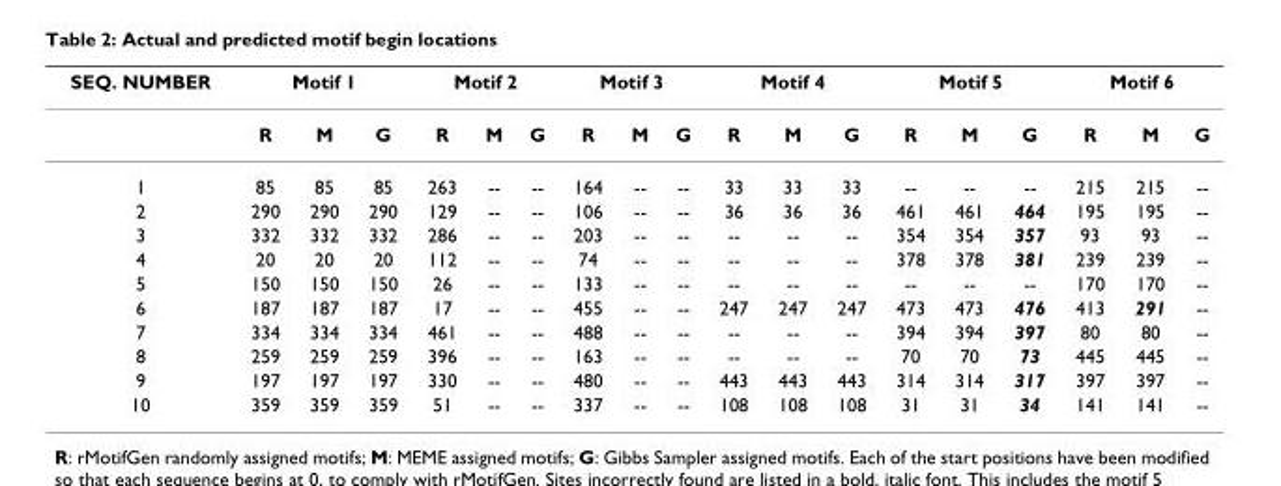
<table><thead><tr><td rowspan="2">SEQ. NUMBER</td><td colspan="3">Motif 1</td><td colspan="3">Motif 2</td><td colspan="3">Motif 3</td><td colspan="3">Motif 4</td><td colspan="3">Motif 5</td><td colspan="3">Motif 6</td></tr><tr><td>R</td><td>M</td><td>G</td><td>R</td><td>M</td><td>G</td><td>R</td><td>M</td><td>G</td><td>R</td><td>M</td><td>G</td><td>R</td><td>M</td><td>G</td><td>R</td><td>M</td><td>G</td></tr></thead><tbody><tr><td>1</td><td>85</td><td>85</td><td>85</td><td>263</td><td>--</td><td>--</td><td>164</td><td>--</td><td>--</td><td>33</td><td>33</td><td>33</td><td>--</td><td>--</td><td>--</td><td>215</td><td>215</td><td>--</td></tr><tr><td>2</td><td>290</td><td>290</td><td>290</td><td>129</td><td>--</td><td>--</td><td>106</td><td>--</td><td>--</td><td>36</td><td>36</td><td>36</td><td>461</td><td>461</td><td>464</td><td>195</td><td>195</td><td>--</td></tr><tr><td>3</td><td>332</td><td>332</td><td>332</td><td>286</td><td>--</td><td>--</td><td>203</td><td>--</td><td>--</td><td>--</td><td>--</td><td>--</td><td>354</td><td>354</td><td>357</td><td>93</td><td>93</td><td>--</td></tr><tr><td>4</td><td>20</td><td>20</td><td>20</td><td>112</td><td>--</td><td>--</td><td>74</td><td>--</td><td>--</td><td>--</td><td>--</td><td>--</td><td>378</td><td>378</td><td>381</td><td>239</td><td>239</td><td>--</td></tr><tr><td>5</td><td>150</td><td>150</td><td>150</td><td>26</td><td>--</td><td>--</td><td>133</td><td>--</td><td>--</td><td>--</td><td>--</td><td>--</td><td>--</td><td>--</td><td>--</td><td>170</td><td>170</td><td>--</td></tr><tr><td>6</td><td>187</td><td>187</td><td>187</td><td>17</td><td>--</td><td>--</td><td>455</td><td>--</td><td>--</td><td>247</td><td>247</td><td>247</td><td>473</td><td>473</td><td>476</td><td>413</td><td>291</td><td>--</td></tr><tr><td>7</td><td>334</td><td>334</td><td>334</td><td>461</td><td>--</td><td>--</td><td>488</td><td>--</td><td>--</td><td>--</td><td>--</td><td>--</td><td>394</td><td>394</td><td>397</td><td>80</td><td>80</td><td>--</td></tr><tr><td>8</td><td>259</td><td>259</td><td>259</td><td>396</td><td>--</td><td>--</td><td>163</td><td>--</td><td>--</td><td>--</td><td>--</td><td>--</td><td>70</td><td>70</td><td>73</td><td>445</td><td>445</td><td>--</td></tr><tr><td>9</td><td>197</td><td>197</td><td>197</td><td>330</td><td>--</td><td>--</td><td>480</td><td>--</td><td>--</td><td>443</td><td>443</td><td>443</td><td>314</td><td>314</td><td>317</td><td>397</td><td>397</td><td>--</td></tr><tr><td>10</td><td>359</td><td>359</td><td>359</td><td>51</td><td>--</td><td>--</td><td>337</td><td>--</td><td>--</td><td>108</td><td>108</td><td>108</td><td>31</td><td>31</td><td>34</td><td>141</td><td>141</td><td>--</td></tr></tbody></table>